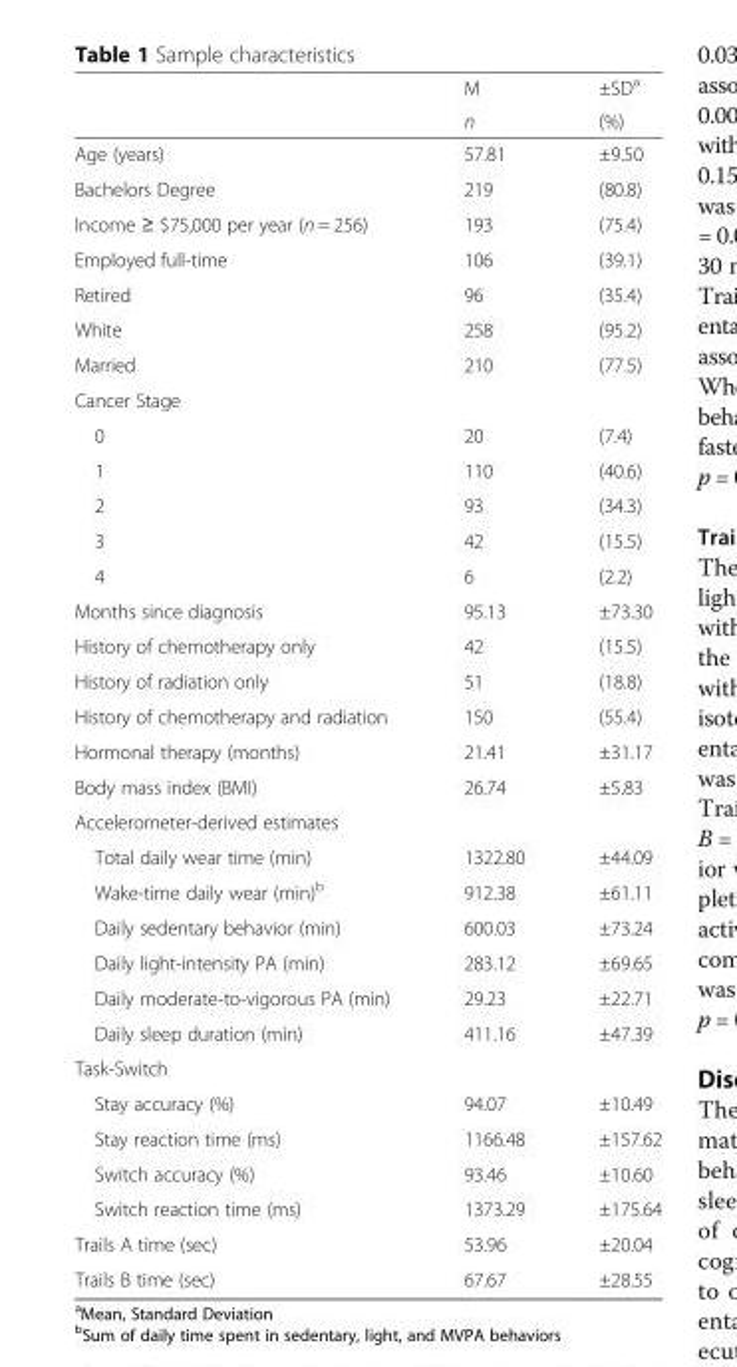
<table><thead><tr><td rowspan="2"></td><td rowspan="2">M n</td><td rowspan="2">±SD<sup>a</sup> (%)</td></tr><tr></tr></thead><tbody><tr><td>Age (years)</td><td>57.81</td><td>±9.50</td></tr><tr><td>Bachelors Degree</td><td>219</td><td>(80.8)</td></tr><tr><td>Income ≥ $75,000 per year (n = 256)</td><td>193</td><td>(75.4)</td></tr><tr><td>Employed full-time</td><td>106</td><td>(39.1)</td></tr><tr><td>Retired</td><td>96</td><td>(35.4)</td></tr><tr><td>White</td><td>258</td><td>(95.2)</td></tr><tr><td>Married</td><td>210</td><td>(77.5)</td></tr><tr><td colspan="3">Cancer Stage</td></tr><tr><td>0</td><td>20</td><td>(7.4)</td></tr><tr><td>1</td><td>110</td><td>(40.6)</td></tr><tr><td>2</td><td>93</td><td>(34.3)</td></tr><tr><td>3</td><td>42</td><td>(15.5)</td></tr><tr><td>4</td><td>6</td><td>(2.2)</td></tr><tr><td>Months since diagnosis</td><td>95.13</td><td>±73.30</td></tr><tr><td>History of chemotherapy only</td><td>42</td><td>(15.5)</td></tr><tr><td>History of radiation only</td><td>51</td><td>(18.8)</td></tr><tr><td>History of chemotherapy and radiation</td><td>150</td><td>(55.4)</td></tr><tr><td>Hormonal therapy (months)</td><td>21.41</td><td>±31.17</td></tr><tr><td>Body mass index (BMI)</td><td>26.74</td><td>±5.83</td></tr><tr><td colspan="3">Accelerometer-derived estimates</td></tr><tr><td>Total daily wear time (min)</td><td>1322.80</td><td>±44.09</td></tr><tr><td>Wake-time daily wear (min)<sup>b</sup></td><td>912.38</td><td>±61.11</td></tr><tr><td>Daily sedentary behavior (min)</td><td>600.03</td><td>±73.24</td></tr><tr><td>Daily light-intensity PA (min)</td><td>283.12</td><td>±69.65</td></tr><tr><td>Daily moderate-to-vigorous PA (min)</td><td>29.23</td><td>±22.71</td></tr><tr><td>Daily sleep duration (min)</td><td>411.16</td><td>±47.39</td></tr><tr><td colspan="3">Task-Switch</td></tr><tr><td>Stay accuracy (%)</td><td>94.07</td><td>±10.49</td></tr><tr><td>Stay reaction time (ms)</td><td>1166.48</td><td>±157.62</td></tr><tr><td>Switch accuracy (%)</td><td>93.46</td><td>±10.60</td></tr><tr><td>Switch reaction time (ms)</td><td>1373.29</td><td>±175.64</td></tr><tr><td>Trails A time (sec)</td><td>53.96</td><td>±20.04</td></tr><tr><td>Trails B time (sec)</td><td>67.67</td><td>±28.55</td></tr></tbody></table>